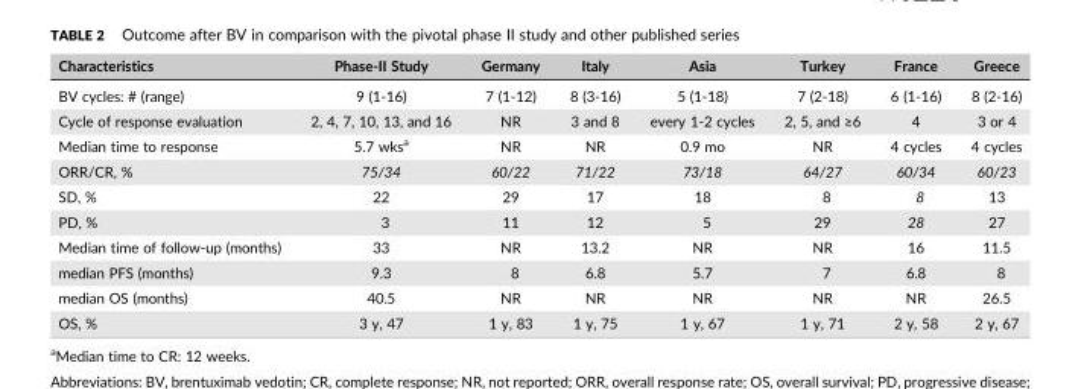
<table><thead><tr><td>Characteristics</td><td>Phase‐II Study</td><td>Germany</td><td>Italy</td><td>Asia</td><td>Turkey</td><td>France</td><td>Greece</td></tr></thead><tbody><tr><td>BV cycles: # (range)</td><td>9 (1‐16)</td><td>7 (1‐12)</td><td>8 (3‐16)</td><td>5 (1‐18)</td><td>7 (2‐18)</td><td>6 (1‐16)</td><td>8 (2‐16)</td></tr><tr><td>Cycle of response evaluation</td><td>2, 4, 7, 10, 13, and 16</td><td>NR</td><td>3 and 8</td><td>every 1‐2 cycles</td><td>2, 5, and ≥6</td><td>4</td><td>3 or 4</td></tr><tr><td>Median time to response</td><td>5.7 wks<sup>a</sup></td><td>NR</td><td>NR</td><td>0.9 mo</td><td>NR</td><td>4 cycles</td><td>4 cycles</td></tr><tr><td>ORR/CR, %</td><td>75/34</td><td>60/22</td><td>71/22</td><td>73/18</td><td>64/27</td><td>60/34</td><td>60/23</td></tr><tr><td>SD, %</td><td>22</td><td>29</td><td>17</td><td>18</td><td>8</td><td>8</td><td>13</td></tr><tr><td>PD, %</td><td>3</td><td>11</td><td>12</td><td>5</td><td>29</td><td>28</td><td>27</td></tr><tr><td>Median time of follow‐up (months)</td><td>33</td><td>NR</td><td>13.2</td><td>NR</td><td>NR</td><td>16</td><td>11.5</td></tr><tr><td>median PFS (months)</td><td>9.3</td><td>8</td><td>6.8</td><td>5.7</td><td>7</td><td>6.8</td><td>8</td></tr><tr><td>median OS (months)</td><td>40.5</td><td>NR</td><td>NR</td><td>NR</td><td>NR</td><td>NR</td><td>26.5</td></tr><tr><td>OS, %</td><td>3 y, 47</td><td>1 y, 83</td><td>1 y, 75</td><td>1 y, 67</td><td>1 y, 71</td><td>2 y, 58</td><td>2 y, 67</td></tr></tbody></table>